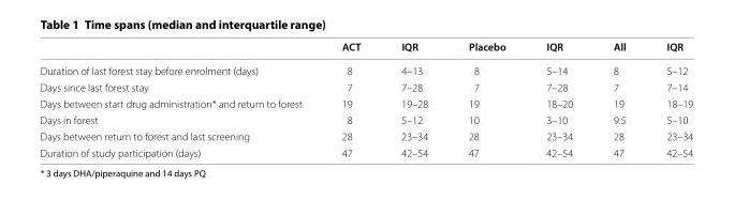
<table><thead><tr><td></td><td>ACT</td><td>IQR</td><td>Placebo</td><td>IQR</td><td>All</td><td>IQR</td></tr></thead><tbody><tr><td>Duration of last forest stay before enrolment (days)</td><td>8</td><td>4–13</td><td>8</td><td>5–14</td><td>8</td><td>5–12</td></tr><tr><td>Days since last forest stay</td><td>7</td><td>7–28</td><td>7</td><td>7–28</td><td>7</td><td>7–14</td></tr><tr><td>Days between start drug administration* and return to forest</td><td>19</td><td>19–28</td><td>19</td><td>18–20</td><td>19</td><td>18–19</td></tr><tr><td>Days in forest</td><td>8</td><td>5–12</td><td>10</td><td>3–10</td><td>9.5</td><td>5–10</td></tr><tr><td>Days between return to forest and last screening</td><td>28</td><td>23–34</td><td>28</td><td>23–34</td><td>28</td><td>23–34</td></tr><tr><td>Duration of study participation (days)</td><td>47</td><td>42–54</td><td>47</td><td>42–54</td><td>47</td><td>42–54</td></tr></tbody></table>